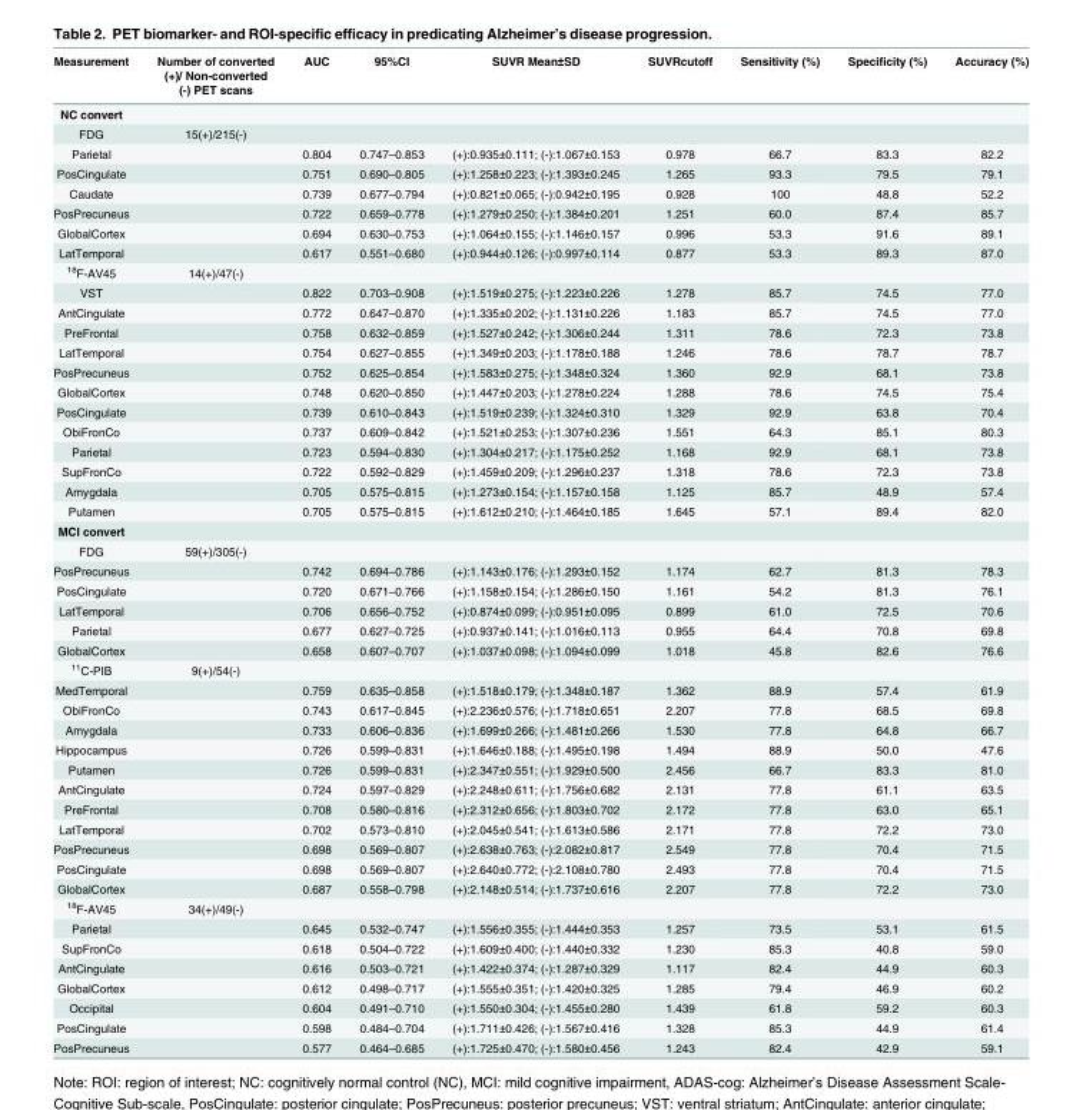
<table><thead><tr><td>Measurement</td><td>Number of converted (+)/ Non-converted (-) PET scans</td><td>AUC</td><td>95%CI</td><td>SUVR Mean±SD</td><td>SUVRcutoff</td><td>Sensitivity (%)</td><td>Specificity (%)</td><td>Accuracy (%)</td></tr></thead><tbody><tr><td colspan="9">NC convert</td></tr><tr><td>FDG</td><td>15(+)/215(-)</td><td></td><td></td><td></td><td></td><td></td><td></td><td></td></tr><tr><td>Parietal</td><td></td><td>0.804</td><td>0.747–0.853</td><td>(+):0.935±0.111; (-):1.067±0.153</td><td>0.978</td><td>66.7</td><td>83.3</td><td>82.2</td></tr><tr><td>PosCingulate</td><td></td><td>0.751</td><td>0.690–0.805</td><td>(+):1.258±0.223; (-):1.393±0.245</td><td>1.265</td><td>93.3</td><td>79.5</td><td>79.1</td></tr><tr><td>Caudate</td><td></td><td>0.739</td><td>0.677–0.794</td><td>(+):0.821±0.065; (-):0.942±0.195</td><td>0.928</td><td>100</td><td>48.8</td><td>52.2</td></tr><tr><td>PosPrecuneus</td><td></td><td>0.722</td><td>0.659–0.778</td><td>(+):1.279±0.250; (-):1.384±0.201</td><td>1.251</td><td>60.0</td><td>87.4</td><td>85.7</td></tr><tr><td>GlobalCortex</td><td></td><td>0.694</td><td>0.630–0.753</td><td>(+):1.064±0.155; (-):1.146±0.157</td><td>0.996</td><td>53.3</td><td>91.6</td><td>89.1</td></tr><tr><td>LatTemporal</td><td></td><td>0.617</td><td>0.551–0.680</td><td>(+):0.944±0.126; (-):0.997±0.114</td><td>0.877</td><td>53.3</td><td>89.3</td><td>87.0</td></tr><tr><td><sup>18</sup>F-AV45</td><td>14(+)/47(-)</td><td></td><td></td><td></td><td></td><td></td><td></td><td></td></tr><tr><td>VST</td><td></td><td>0.822</td><td>0.703–0.908</td><td>(+):1.519±0.275; (-):1.223±0.226</td><td>1.278</td><td>85.7</td><td>74.5</td><td>77.0</td></tr><tr><td>AntCingulate</td><td></td><td>0.772</td><td>0.647–0.870</td><td>(+):1.335±0.202; (-):1.131±0.226</td><td>1.183</td><td>85.7</td><td>74.5</td><td>77.0</td></tr><tr><td>PreFrontal</td><td></td><td>0.758</td><td>0.632–0.859</td><td>(+):1.527±0.242; (-):1.306±0.244</td><td>1.311</td><td>78.6</td><td>72.3</td><td>73.8</td></tr><tr><td>LatTemporal</td><td></td><td>0.754</td><td>0.627–0.855</td><td>(+):1.349±0.203; (-):1.178±0.188</td><td>1.246</td><td>78.6</td><td>78.7</td><td>78.7</td></tr><tr><td>PosPrecuneus</td><td></td><td>0.752</td><td>0.625–0.854</td><td>(+):1.583±0.275; (-):1.348±0.324</td><td>1.360</td><td>92.9</td><td>68.1</td><td>73.8</td></tr><tr><td>GlobalCortex</td><td></td><td>0.748</td><td>0.620–0.850</td><td>(+):1.447±0.203; (-):1.278±0.224</td><td>1.288</td><td>78.6</td><td>74.5</td><td>75.4</td></tr><tr><td>PosCingulate</td><td></td><td>0.739</td><td>0.610–0.843</td><td>(+):1.519±0.239; (-):1.324±0.310</td><td>1.329</td><td>92.9</td><td>63.8</td><td>70.4</td></tr><tr><td>ObiFronCo</td><td></td><td>0.737</td><td>0.609–0.842</td><td>(+):1.521±0.253; (-):1.307±0.236</td><td>1.551</td><td>64.3</td><td>85.1</td><td>80.3</td></tr><tr><td>Parietal</td><td></td><td>0.723</td><td>0.594–0.830</td><td>(+):1.304±0.217; (-):1.175±0.252</td><td>1.168</td><td>92.9</td><td>68.1</td><td>73.8</td></tr><tr><td>SupFronCo</td><td></td><td>0.722</td><td>0.592–0.829</td><td>(+):1.459±0.209; (-):1.296±0.237</td><td>1.318</td><td>78.6</td><td>72.3</td><td>73.8</td></tr><tr><td>Amygdala</td><td></td><td>0.705</td><td>0.575–0.815</td><td>(+):1.273±0.154; (-):1.157±0.158</td><td>1.125</td><td>85.7</td><td>48.9</td><td>57.4</td></tr><tr><td>Putamen</td><td></td><td>0.705</td><td>0.575–0.815</td><td>(+):1.612±0.210; (-):1.464±0.185</td><td>1.645</td><td>57.1</td><td>89.4</td><td>82.0</td></tr><tr><td colspan="9">MCI convert</td></tr><tr><td>FDG</td><td>59(+)/305(-)</td><td></td><td></td><td></td><td></td><td></td><td></td><td></td></tr><tr><td>PosPrecuneus</td><td></td><td>0.742</td><td>0.694–0.786</td><td>(+):1.143±0.176; (-):1.293±0.152</td><td>1.174</td><td>62.7</td><td>81.3</td><td>78.3</td></tr><tr><td>PosCingulate</td><td></td><td>0.720</td><td>0.671–0.766</td><td>(+):1.158±0.154; (-):1.286±0.150</td><td>1.161</td><td>54.2</td><td>81.3</td><td>76.1</td></tr><tr><td>LatTemporal</td><td></td><td>0.706</td><td>0.656–0.752</td><td>(+):0.874±0.099; (-):0.951±0.095</td><td>0.899</td><td>61.0</td><td>72.5</td><td>70.6</td></tr><tr><td>Parietal</td><td></td><td>0.677</td><td>0.627–0.725</td><td>(+):0.937±0.141; (-):1.016±0.113</td><td>0.955</td><td>64.4</td><td>70.8</td><td>69.8</td></tr><tr><td>GlobalCortex</td><td></td><td>0.658</td><td>0.607–0.707</td><td>(+):1.037±0.098; (-):1.094±0.099</td><td>1.018</td><td>45.8</td><td>82.6</td><td>76.6</td></tr><tr><td><sup>11</sup>C-PIB</td><td>9(+)/54(-)</td><td></td><td></td><td></td><td></td><td></td><td></td><td></td></tr><tr><td>MedTemporal</td><td></td><td>0.759</td><td>0.635–0.858</td><td>(+):1.518±0.179; (-):1.348±0.187</td><td>1.362</td><td>88.9</td><td>57.4</td><td>61.9</td></tr><tr><td>ObiFronCo</td><td></td><td>0.743</td><td>0.617–0.845</td><td>(+):2.236±0.576; (-):1.718±0.651</td><td>2.207</td><td>77.8</td><td>68.5</td><td>69.8</td></tr><tr><td>Amygdala</td><td></td><td>0.733</td><td>0.606–0.836</td><td>(+):1.699±0.266; (-):1.481±0.266</td><td>1.530</td><td>77.8</td><td>64.8</td><td>66.7</td></tr><tr><td>Hippocampus</td><td></td><td>0.726</td><td>0.599–0.831</td><td>(+):1.646±0.188; (-):1.495±0.198</td><td>1.494</td><td>88.9</td><td>50.0</td><td>47.6</td></tr><tr><td>Putamen</td><td></td><td>0.726</td><td>0.599–0.831</td><td>(+):2.347±0.551; (-):1.929±0.500</td><td>2.456</td><td>66.7</td><td>83.3</td><td>81.0</td></tr><tr><td>AntCingulate</td><td></td><td>0.724</td><td>0.597–0.829</td><td>(+):2.248±0.611; (-):1.756±0.682</td><td>2.131</td><td>77.8</td><td>61.1</td><td>63.5</td></tr><tr><td>PreFrontal</td><td></td><td>0.708</td><td>0.580–0.816</td><td>(+):2.312±0.656; (-):1.803±0.702</td><td>2.172</td><td>77.8</td><td>63.0</td><td>65.1</td></tr><tr><td>LatTemporal</td><td></td><td>0.702</td><td>0.573–0.810</td><td>(+):2.045±0.541; (-):1.613±0.586</td><td>2.171</td><td>77.8</td><td>72.2</td><td>73.0</td></tr><tr><td>PosPrecuneus</td><td></td><td>0.698</td><td>0.569–0.807</td><td>(+):2.638±0.763; (-):2.082±0.817</td><td>2.549</td><td>77.8</td><td>70.4</td><td>71.5</td></tr><tr><td>PosCingulate</td><td></td><td>0.698</td><td>0.569–0.807</td><td>(+):2.640±0.772; (-):2.108±0.780</td><td>2.493</td><td>77.8</td><td>70.4</td><td>71.5</td></tr><tr><td>GlobalCortex</td><td></td><td>0.687</td><td>0.558–0.798</td><td>(+):2.148±0.514; (-):1.737±0.616</td><td>2.207</td><td>77.8</td><td>72.2</td><td>73.0</td></tr><tr><td><sup>18</sup>F-AV45</td><td>34(+)/49(-)</td><td></td><td></td><td></td><td></td><td></td><td></td><td></td></tr><tr><td>Parietal</td><td></td><td>0.645</td><td>0.532–0.747</td><td>(+):1.556±0.355; (-):1.444±0.353</td><td>1.257</td><td>73.5</td><td>53.1</td><td>61.5</td></tr><tr><td>SupFronCo</td><td></td><td>0.618</td><td>0.504–0.722</td><td>(+):1.609±0.400; (-):1.440±0.332</td><td>1.230</td><td>85.3</td><td>40.8</td><td>59.0</td></tr><tr><td>AntCingulate</td><td></td><td>0.616</td><td>0.503–0.721</td><td>(+):1.422±0.374; (-):1.287±0.329</td><td>1.117</td><td>82.4</td><td>44.9</td><td>60.3</td></tr><tr><td>GlobalCortex</td><td></td><td>0.612</td><td>0.498–0.717</td><td>(+):1.555±0.351; (-):1.420±0.325</td><td>1.285</td><td>79.4</td><td>46.9</td><td>60.2</td></tr><tr><td>Occipital</td><td></td><td>0.604</td><td>0.491–0.710</td><td>(+):1.550±0.304; (-):1.455±0.280</td><td>1.439</td><td>61.8</td><td>59.2</td><td>60.3</td></tr><tr><td>PosCingulate</td><td></td><td>0.598</td><td>0.484–0.704</td><td>(+):1.711±0.426; (-):1.567±0.416</td><td>1.328</td><td>85.3</td><td>44.9</td><td>61.4</td></tr><tr><td>PosPrecuneus</td><td></td><td>0.577</td><td>0.464–0.685</td><td>(+):1.725±0.470; (-):1.580±0.456</td><td>1.243</td><td>82.4</td><td>42.9</td><td>59.1</td></tr></tbody></table>